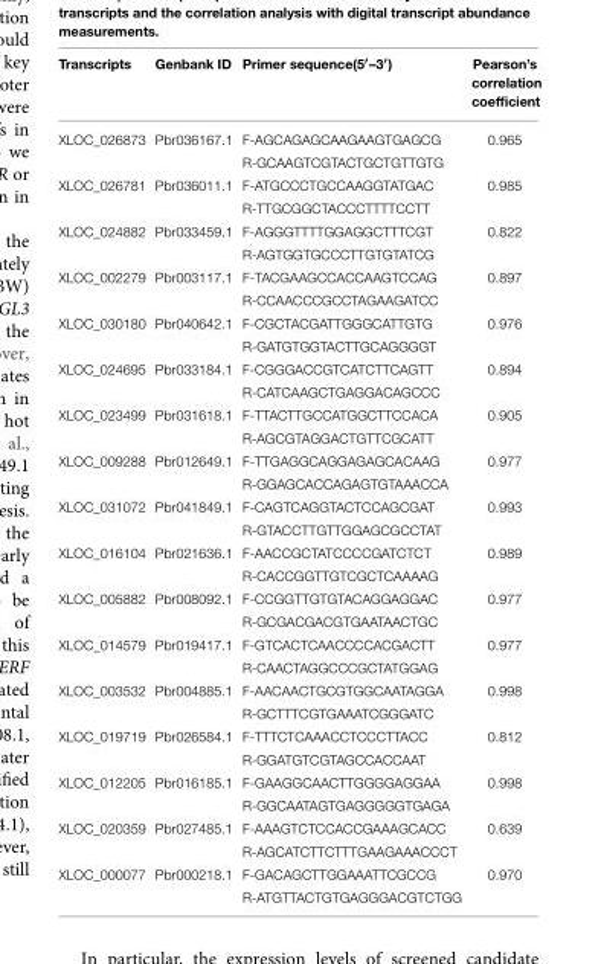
<table><thead><tr><td>Transcripts</td><td>Genbank ID</td><td>Primer sequence(5′–3′)</td><td>Pearson’s correlation coefficient</td></tr></thead><tbody><tr><td rowspan="2">XLOC_026873</td><td>Pbr036167.1</td><td>F-AGCAGAGCAAGAAGTGAGCG</td><td>0.965</td></tr><tr><td></td><td>R-GCAAGTCGTACTGCTGTTGTG</td><td></td></tr><tr><td rowspan="2">XLOC_026781</td><td>Pbr036011.1</td><td>F-ATGCCCTGCCAAGGTATGAC</td><td>0.985</td></tr><tr><td></td><td>R-TTGCGGCTACCCTTTTCCTT</td><td></td></tr><tr><td rowspan="2">XLOC_024882</td><td>Pbr033459.1</td><td>F-AGGGTTTTGGAGGCTTTCGT</td><td>0.822</td></tr><tr><td></td><td>R-AGTGGTGCCCTTGTGTATCG</td><td></td></tr><tr><td rowspan="2">XLOC_002279</td><td>Pbr003117.1</td><td>F-TACGAAGCCACCAAGTCCAG</td><td>0.897</td></tr><tr><td></td><td>R-CCAACCCGCCTAGAAGATCC</td><td></td></tr><tr><td rowspan="2">XLOC_030180</td><td>Pbr040642.1</td><td>F-CGCTACGATTGGGCATTGTG</td><td>0.976</td></tr><tr><td></td><td>R-GATGTGGTACTTGCAGGGGT</td><td></td></tr><tr><td rowspan="2">XLOC_024695</td><td>Pbr033184.1</td><td>F-CGGGACCGTCATCTTCAGTT</td><td>0.894</td></tr><tr><td></td><td>R-CATCAAGCTGAGGACAGCCC</td><td></td></tr><tr><td rowspan="2">XLOC_023499</td><td>Pbr031618.1</td><td>F-TTACTTGCCATGGCTTCCACA</td><td>0.905</td></tr><tr><td></td><td>R-AGCGTAGGACTGTTCGCATT</td><td></td></tr><tr><td rowspan="2">XLOC_009288</td><td>Pbr012649.1</td><td>F-TTGAGGCAGGAGAGCACAAG</td><td>0.977</td></tr><tr><td></td><td>R-GGAGCACCAGAGTGTAAACCA</td><td></td></tr><tr><td rowspan="2">XLOC_031072</td><td>Pbr041849.1</td><td>F-CAGTCAGGTACTCCAGCGAT</td><td>0.993</td></tr><tr><td></td><td>R-GTACCTTGTTGGAGCGCCTAT</td><td></td></tr><tr><td rowspan="2">XLOC_016104</td><td>Pbr021636.1</td><td>F-AACCGCTATCCCCGATCTCT</td><td>0.989</td></tr><tr><td></td><td>R-CACCGGTTGTCGCTCAAAAG</td><td></td></tr><tr><td rowspan="2">XLOC_005882</td><td>Pbr008092.1</td><td>F-CCGGTTGTGTACAGGAGGAC</td><td>0.977</td></tr><tr><td></td><td>R-GCGACGACGTGAATAACTGC</td><td></td></tr><tr><td rowspan="2">XLOC_014579</td><td>Pbr019417.1</td><td>F-GTCACTCAACCCCACGACTT</td><td>0.977</td></tr><tr><td></td><td>R-CAACTAGGCCCGCTATGGAG</td><td></td></tr><tr><td rowspan="2">XLOC_003532</td><td>Pbr004885.1</td><td>F-AACAACTGCGTGGCAATAGGA</td><td>0.998</td></tr><tr><td></td><td>R-GCTTTCGTGAAATCGGGATC</td><td></td></tr><tr><td rowspan="2">XLOC_019719</td><td>Pbr026584.1</td><td>F-TTTCTCAAACCTCCCTTACC</td><td>0.812</td></tr><tr><td></td><td>R-GGATGTCGTAGCCACCAAT</td><td></td></tr><tr><td rowspan="2">XLOC_012205</td><td>Pbr016185.1</td><td>F-GAAGGCAACTTGGGGAGGAA</td><td>0.998</td></tr><tr><td></td><td>R-GGCAATAGTGAGGGGGTGAGA</td><td></td></tr><tr><td rowspan="2">XLOC_020359</td><td>Pbr027485.1</td><td>F-AAAGTCTCCACCGAAAGCACC</td><td>0.639</td></tr><tr><td></td><td>R-AGCATCTTCTTTGAAGAAACCCT</td><td></td></tr><tr><td rowspan="2">XLOC_000077</td><td>Pbr000218.1</td><td>F-GACAGCTTGGAAATTCGCCG</td><td>0.970</td></tr><tr><td></td><td>R-ATGTTACTGTGAGGGACGTCTGG</td><td></td></tr></tbody></table>